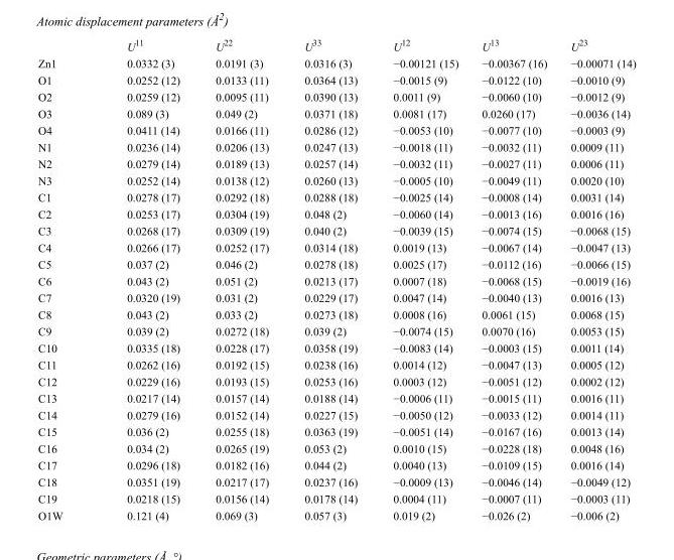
<table><thead><tr><td></td><td>U<sup>11</sup></td><td>U<sup>22</sup></td><td>U<sup>33</sup></td><td>U<sup>12</sup></td><td>U<sup>13</sup></td><td>U<sup>23</sup></td></tr></thead><tbody><tr><td>Zn1</td><td>0.0332 (3)</td><td>0.0191 (3)</td><td>0.0316 (3)</td><td>−0.00121 (15)</td><td>−0.00367 (16)</td><td>−0.00071 (14)</td></tr><tr><td>O1</td><td>0.0252 (12)</td><td>0.0133 (11)</td><td>0.0364 (13)</td><td>−0.0015 (9)</td><td>−0.0122 (10)</td><td>−0.0010 (9)</td></tr><tr><td>O2</td><td>0.0259 (12)</td><td>0.0095 (11)</td><td>0.0390 (13)</td><td>0.0011 (9)</td><td>−0.0060 (10)</td><td>−0.0012 (9)</td></tr><tr><td>O3</td><td>0.089 (3)</td><td>0.049 (2)</td><td>0.0371 (18)</td><td>0.0081 (17)</td><td>0.0260 (17)</td><td>−0.0036 (14)</td></tr><tr><td>O4</td><td>0.0411 (14)</td><td>0.0166 (11)</td><td>0.0286 (12)</td><td>−0.0053 (10)</td><td>−0.0077 (10)</td><td>−0.0003 (9)</td></tr><tr><td>N1</td><td>0.0236 (14)</td><td>0.0206 (13)</td><td>0.0247 (13)</td><td>−0.0018 (11)</td><td>−0.0032 (11)</td><td>0.0009 (11)</td></tr><tr><td>N2</td><td>0.0279 (14)</td><td>0.0189 (13)</td><td>0.0257 (14)</td><td>−0.0032 (11)</td><td>−0.0027 (11)</td><td>0.0006 (11)</td></tr><tr><td>N3</td><td>0.0252 (14)</td><td>0.0138 (12)</td><td>0.0260 (13)</td><td>−0.0005 (10)</td><td>−0.0049 (11)</td><td>0.0020 (10)</td></tr><tr><td>C1</td><td>0.0278 (17)</td><td>0.0292 (18)</td><td>0.0288 (18)</td><td>−0.0025 (14)</td><td>−0.0008 (14)</td><td>0.0031 (14)</td></tr><tr><td>C2</td><td>0.0253 (17)</td><td>0.0304 (19)</td><td>0.048 (2)</td><td>−0.0060 (14)</td><td>−0.0013 (16)</td><td>0.0016 (16)</td></tr><tr><td>C3</td><td>0.0268 (17)</td><td>0.0309 (19)</td><td>0.040 (2)</td><td>−0.0039 (15)</td><td>−0.0074 (15)</td><td>−0.0068 (15)</td></tr><tr><td>C4</td><td>0.0266 (17)</td><td>0.0252 (17)</td><td>0.0314 (18)</td><td>0.0019 (13)</td><td>−0.0067 (14)</td><td>−0.0047 (13)</td></tr><tr><td>C5</td><td>0.037 (2)</td><td>0.046 (2)</td><td>0.0278 (18)</td><td>0.0025 (17)</td><td>−0.0112 (16)</td><td>−0.0066 (15)</td></tr><tr><td>C6</td><td>0.043 (2)</td><td>0.051 (2)</td><td>0.0213 (17)</td><td>0.0007 (18)</td><td>−0.0068 (15)</td><td>−0.0019 (16)</td></tr><tr><td>C7</td><td>0.0320 (19)</td><td>0.031 (2)</td><td>0.0229 (17)</td><td>0.0047 (14)</td><td>−0.0040 (13)</td><td>0.0016 (13)</td></tr><tr><td>C8</td><td>0.043 (2)</td><td>0.033 (2)</td><td>0.0273 (18)</td><td>0.0008 (16)</td><td>0.0061 (15)</td><td>0.0068 (15)</td></tr><tr><td>C9</td><td>0.039 (2)</td><td>0.0272 (18)</td><td>0.039 (2)</td><td>−0.0074 (15)</td><td>0.0070 (16)</td><td>0.0053 (15)</td></tr><tr><td>C10</td><td>0.0335 (18)</td><td>0.0228 (17)</td><td>0.0358 (19)</td><td>−0.0083 (14)</td><td>−0.0003 (15)</td><td>0.0011 (14)</td></tr><tr><td>C11</td><td>0.0262 (16)</td><td>0.0192 (15)</td><td>0.0238 (16)</td><td>0.0014 (12)</td><td>−0.0047 (13)</td><td>0.0005 (12)</td></tr><tr><td>C12</td><td>0.0229 (16)</td><td>0.0193 (15)</td><td>0.0253 (16)</td><td>0.0003 (12)</td><td>−0.0051 (12)</td><td>0.0002 (12)</td></tr><tr><td>C13</td><td>0.0217 (14)</td><td>0.0157 (14)</td><td>0.0188 (14)</td><td>−0.0006 (11)</td><td>−0.0015 (11)</td><td>0.0016 (11)</td></tr><tr><td>C14</td><td>0.0279 (16)</td><td>0.0152 (14)</td><td>0.0227 (15)</td><td>−0.0050 (12)</td><td>−0.0033 (12)</td><td>0.0014 (11)</td></tr><tr><td>C15</td><td>0.036 (2)</td><td>0.0255 (18)</td><td>0.0363 (19)</td><td>−0.0051 (14)</td><td>−0.0167 (16)</td><td>0.0013 (14)</td></tr><tr><td>C16</td><td>0.034 (2)</td><td>0.0265 (19)</td><td>0.053 (2)</td><td>0.0010 (15)</td><td>−0.0228 (18)</td><td>0.0048 (16)</td></tr><tr><td>C17</td><td>0.0296 (18)</td><td>0.0182 (16)</td><td>0.044 (2)</td><td>0.0040 (13)</td><td>−0.0109 (15)</td><td>0.0016 (14)</td></tr><tr><td>C18</td><td>0.0351 (19)</td><td>0.0217 (17)</td><td>0.0237 (16)</td><td>−0.0009 (13)</td><td>−0.0046 (14)</td><td>−0.0049 (12)</td></tr><tr><td>C19</td><td>0.0218 (15)</td><td>0.0156 (14)</td><td>0.0178 (14)</td><td>0.0004 (11)</td><td>−0.0007 (11)</td><td>−0.0003 (11)</td></tr><tr><td>O1W</td><td>0.121 (4)</td><td>0.069 (3)</td><td>0.057 (3)</td><td>0.019 (2)</td><td>−0.026 (2)</td><td>−0.006 (2)</td></tr></tbody></table>